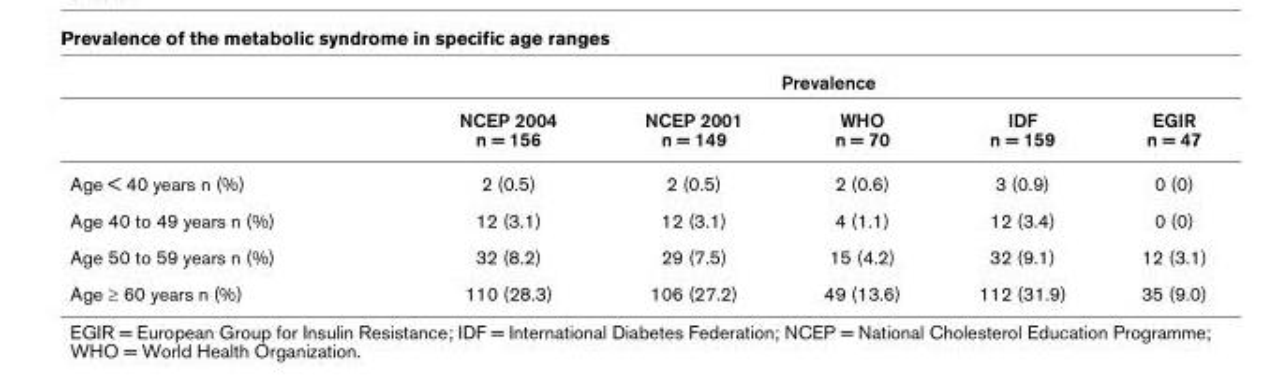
<table><thead><tr><td rowspan="2"></td><td colspan="5">Prevalence</td></tr><tr><td>NCEP 2004 n = 156</td><td>NCEP 2001 n = 149</td><td>WHO n = 70</td><td>IDF n = 159</td><td>EGIR n = 47</td></tr></thead><tbody><tr><td>Age &lt; 40 years n (%)</td><td>2 (0.5)</td><td>2 (0.5)</td><td>2 (0.6)</td><td>3 (0.9)</td><td>0 (0)</td></tr><tr><td>Age 40 to 49 years n (%)</td><td>12 (3.1)</td><td>12 (3.1)</td><td>4 (1.1)</td><td>12 (3.4)</td><td>0 (0)</td></tr><tr><td>Age 50 to 59 years n (%)</td><td>32 (8.2)</td><td>29 (7.5)</td><td>15 (4.2)</td><td>32 (9.1)</td><td>12 (3.1)</td></tr><tr><td>Age ≥ 60 years n (%)</td><td>110 (28.3)</td><td>106 (27.2)</td><td>49 (13.6)</td><td>112 (31.9)</td><td>35 (9.0)</td></tr></tbody></table>